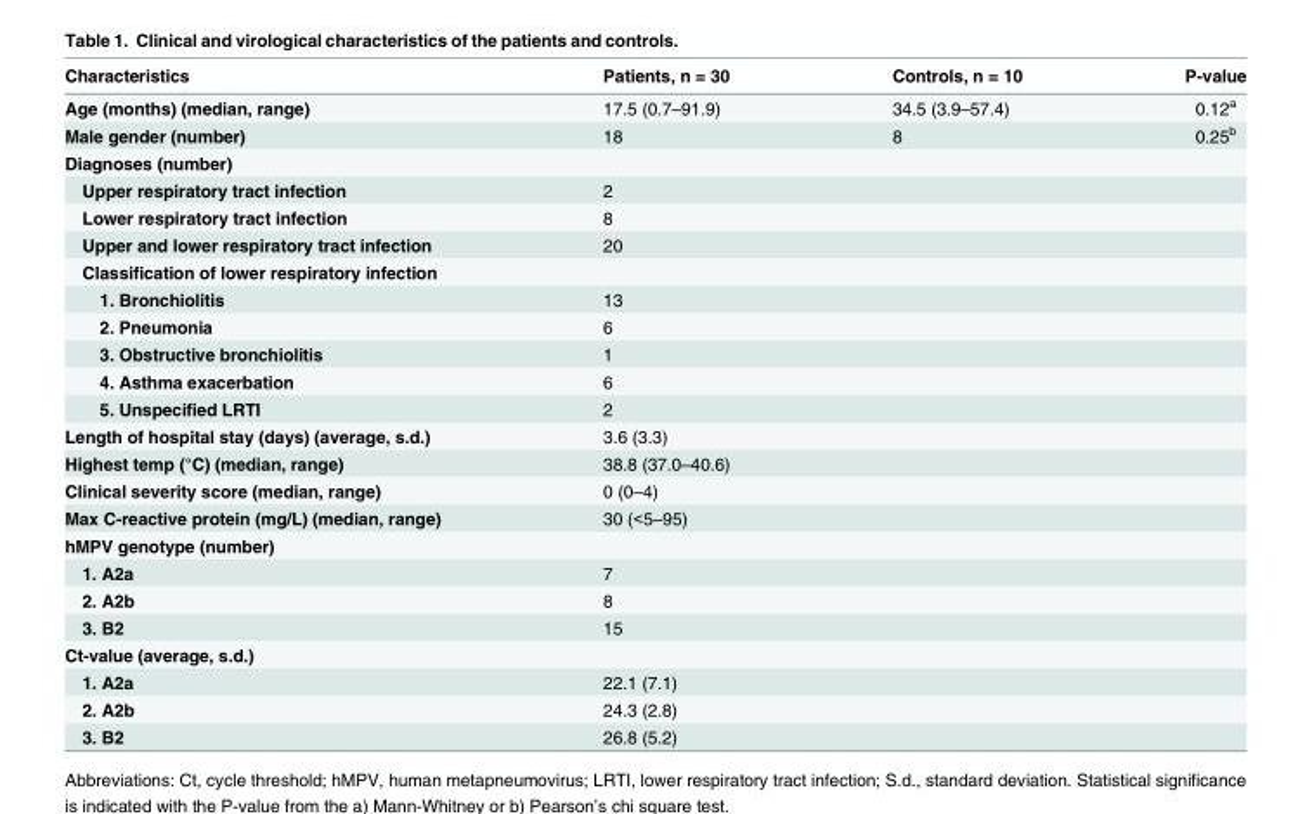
<table><thead><tr><td>Characteristics</td><td>Patients, n = 30</td><td>Controls, n = 10</td><td>P-value</td></tr></thead><tbody><tr><td>Age (months) (median, range)</td><td>17.5 (0.7–91.9)</td><td>34.5 (3.9–57.4)</td><td>0.12<sup>a</sup></td></tr><tr><td>Male gender (number)</td><td>18</td><td>8</td><td>0.25<sup>b</sup></td></tr><tr><td colspan="4">Diagnoses (number)</td></tr><tr><td>Upper respiratory tract infection</td><td>2</td><td></td><td></td></tr><tr><td>Lower respiratory tract infection</td><td>8</td><td></td><td></td></tr><tr><td>Upper and lower respiratory tract infection</td><td>20</td><td></td><td></td></tr><tr><td colspan="4">Classification of lower respiratory infection</td></tr><tr><td>1. Bronchiolitis</td><td>13</td><td></td><td></td></tr><tr><td>2. Pneumonia</td><td>6</td><td></td><td></td></tr><tr><td>3. Obstructive bronchiolitis</td><td>1</td><td></td><td></td></tr><tr><td>4. Asthma exacerbation</td><td>6</td><td></td><td></td></tr><tr><td>5. Unspecified LRTI</td><td>2</td><td></td><td></td></tr><tr><td>Length of hospital stay (days) (average, s.d.)</td><td>3.6 (3.3)</td><td></td><td></td></tr><tr><td>Highest temp (°C) (median, range)</td><td>38.8 (37.0–40.6)</td><td></td><td></td></tr><tr><td>Clinical severity score (median, range)</td><td>0 (0–4)</td><td></td><td></td></tr><tr><td>Max C-reactive protein (mg/L) (median, range)</td><td>30 (&lt;5–95)</td><td></td><td></td></tr><tr><td colspan="4">hMPV genotype (number)</td></tr><tr><td>1. A2a</td><td>7</td><td></td><td></td></tr><tr><td>2. A2b</td><td>8</td><td></td><td></td></tr><tr><td>3. B2</td><td>15</td><td></td><td></td></tr><tr><td colspan="4">Ct-value (average, s.d.)</td></tr><tr><td>1. A2a</td><td>22.1 (7.1)</td><td></td><td></td></tr><tr><td>2. A2b</td><td>24.3 (2.8)</td><td></td><td></td></tr><tr><td>3. B2</td><td>26.8 (5.2)</td><td></td><td></td></tr></tbody></table>